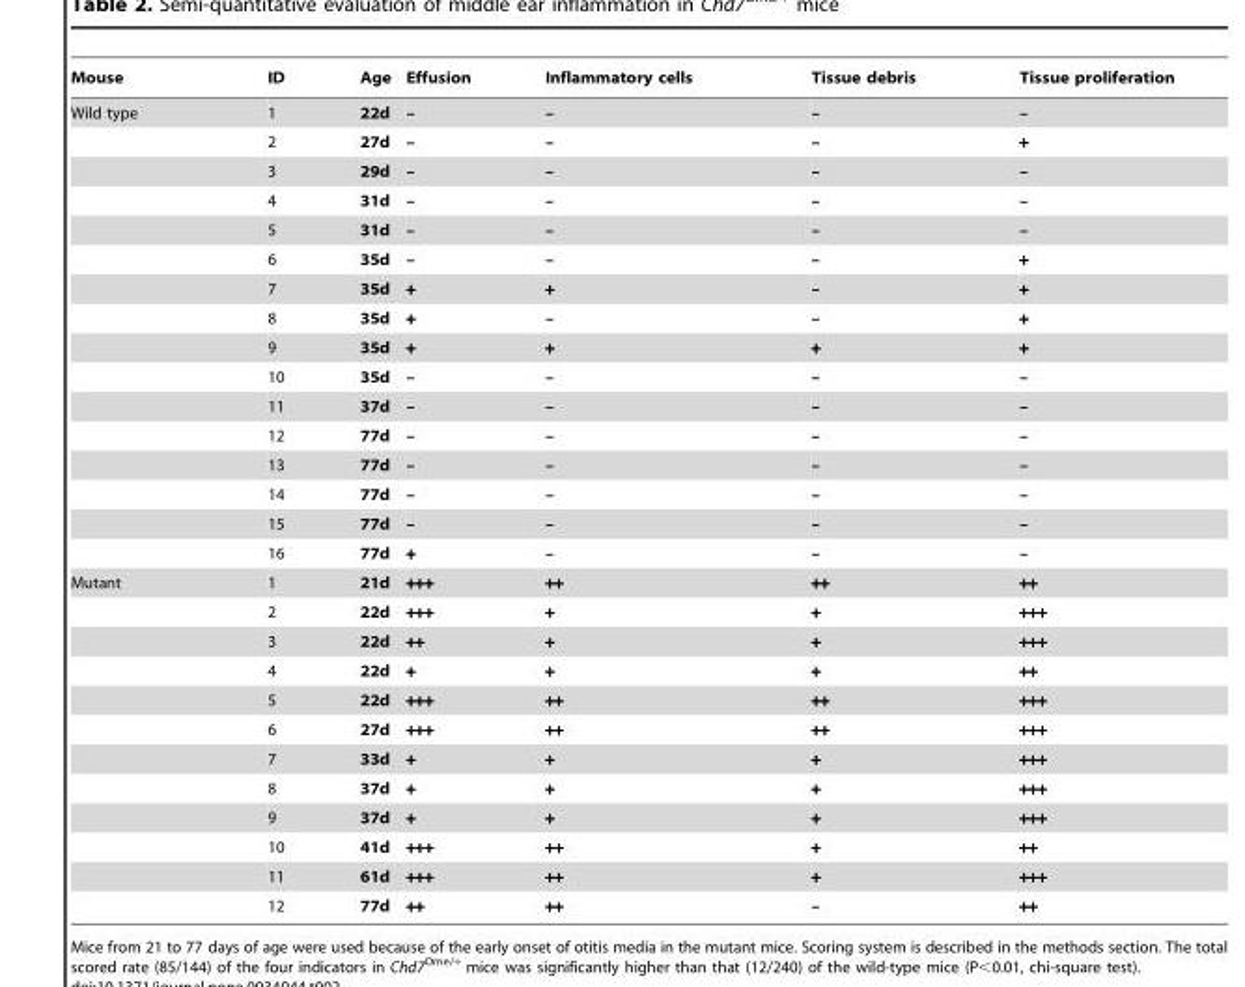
<table><thead><tr><td>Mouse</td><td>ID</td><td>Age</td><td>Effusion</td><td>Inflammatory cells</td><td>Tissue debris</td><td>Tissue proliferation</td></tr></thead><tbody><tr><td rowspan="16">Wild type</td><td>1</td><td>22d</td><td>–</td><td>–</td><td>–</td><td>–</td></tr><tr><td>2</td><td>27d</td><td>–</td><td>–</td><td>–</td><td>+</td></tr><tr><td>3</td><td>29d</td><td>–</td><td>–</td><td>–</td><td>–</td></tr><tr><td>4</td><td>31d</td><td>–</td><td>–</td><td>–</td><td>–</td></tr><tr><td>5</td><td>31d</td><td>–</td><td>–</td><td>–</td><td>–</td></tr><tr><td>6</td><td>35d</td><td>–</td><td>–</td><td>–</td><td>+</td></tr><tr><td>7</td><td>35d</td><td>+</td><td>+</td><td>–</td><td>+</td></tr><tr><td>8</td><td>35d</td><td>+</td><td>–</td><td>–</td><td>+</td></tr><tr><td>9</td><td>35d</td><td>+</td><td>+</td><td>+</td><td>+</td></tr><tr><td>10</td><td>35d</td><td>–</td><td>–</td><td>–</td><td>–</td></tr><tr><td>11</td><td>37d</td><td>–</td><td>–</td><td>–</td><td>–</td></tr><tr><td>12</td><td>77d</td><td>–</td><td>–</td><td>–</td><td>–</td></tr><tr><td>13</td><td>77d</td><td>–</td><td>–</td><td>–</td><td>–</td></tr><tr><td>14</td><td>77d</td><td>–</td><td>–</td><td>–</td><td>–</td></tr><tr><td>15</td><td>77d</td><td>–</td><td>–</td><td>–</td><td>–</td></tr><tr><td>16</td><td>77d</td><td>+</td><td>–</td><td>–</td><td>–</td></tr><tr><td rowspan="12">Mutant</td><td>1</td><td>21d</td><td>+++</td><td>++</td><td>++</td><td>++</td></tr><tr><td>2</td><td>22d</td><td>+++</td><td>+</td><td>+</td><td>+++</td></tr><tr><td>3</td><td>22d</td><td>++</td><td>+</td><td>+</td><td>+++</td></tr><tr><td>4</td><td>22d</td><td>+</td><td>+</td><td>+</td><td>++</td></tr><tr><td>5</td><td>22d</td><td>+++</td><td>++</td><td>++</td><td>+++</td></tr><tr><td>6</td><td>27d</td><td>+++</td><td>++</td><td>++</td><td>+++</td></tr><tr><td>7</td><td>33d</td><td>+</td><td>+</td><td>+</td><td>+++</td></tr><tr><td>8</td><td>37d</td><td>+</td><td>+</td><td>+</td><td>+++</td></tr><tr><td>9</td><td>37d</td><td>+</td><td>+</td><td>+</td><td>+++</td></tr><tr><td>10</td><td>41d</td><td>+++</td><td>++</td><td>+</td><td>++</td></tr><tr><td>11</td><td>61d</td><td>+++</td><td>++</td><td>+</td><td>+++</td></tr><tr><td>12</td><td>77d</td><td>++</td><td>++</td><td>–</td><td>++</td></tr></tbody></table>